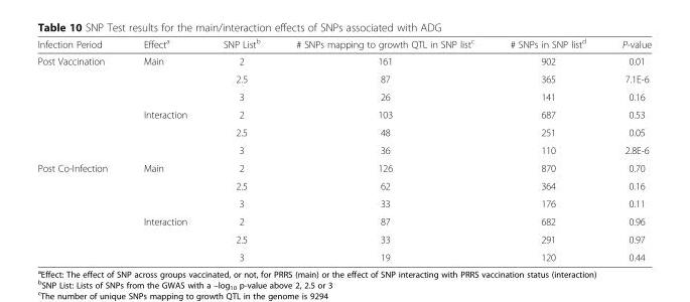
<table><thead><tr><td>Infection Period</td><td>Effect<sup>a</sup></td><td>SNP List<sup>b</sup></td><td># SNPs mapping to growth QTL in SNP list<sup>c</sup></td><td># SNPs in SNP list<sup>d</sup></td><td>P-value</td></tr></thead><tbody><tr><td rowspan="6">Post Vaccination</td><td rowspan="3">Main</td><td>2</td><td>161</td><td>902</td><td>0.01</td></tr><tr><td>2.5</td><td>87</td><td>365</td><td>7.1E-6</td></tr><tr><td>3</td><td>26</td><td>141</td><td>0.16</td></tr><tr><td rowspan="3">Interaction</td><td>2</td><td>103</td><td>687</td><td>0.53</td></tr><tr><td>2.5</td><td>48</td><td>251</td><td>0.05</td></tr><tr><td>3</td><td>36</td><td>110</td><td>2.8E-6</td></tr><tr><td rowspan="6">Post Co-Infection</td><td rowspan="3">Main</td><td>2</td><td>126</td><td>870</td><td>0.70</td></tr><tr><td>2.5</td><td>62</td><td>364</td><td>0.16</td></tr><tr><td>3</td><td>33</td><td>176</td><td>0.11</td></tr><tr><td rowspan="3">Interaction</td><td>2</td><td>87</td><td>682</td><td>0.96</td></tr><tr><td>2.5</td><td>33</td><td>291</td><td>0.97</td></tr><tr><td>3</td><td>19</td><td>120</td><td>0.44</td></tr></tbody></table>